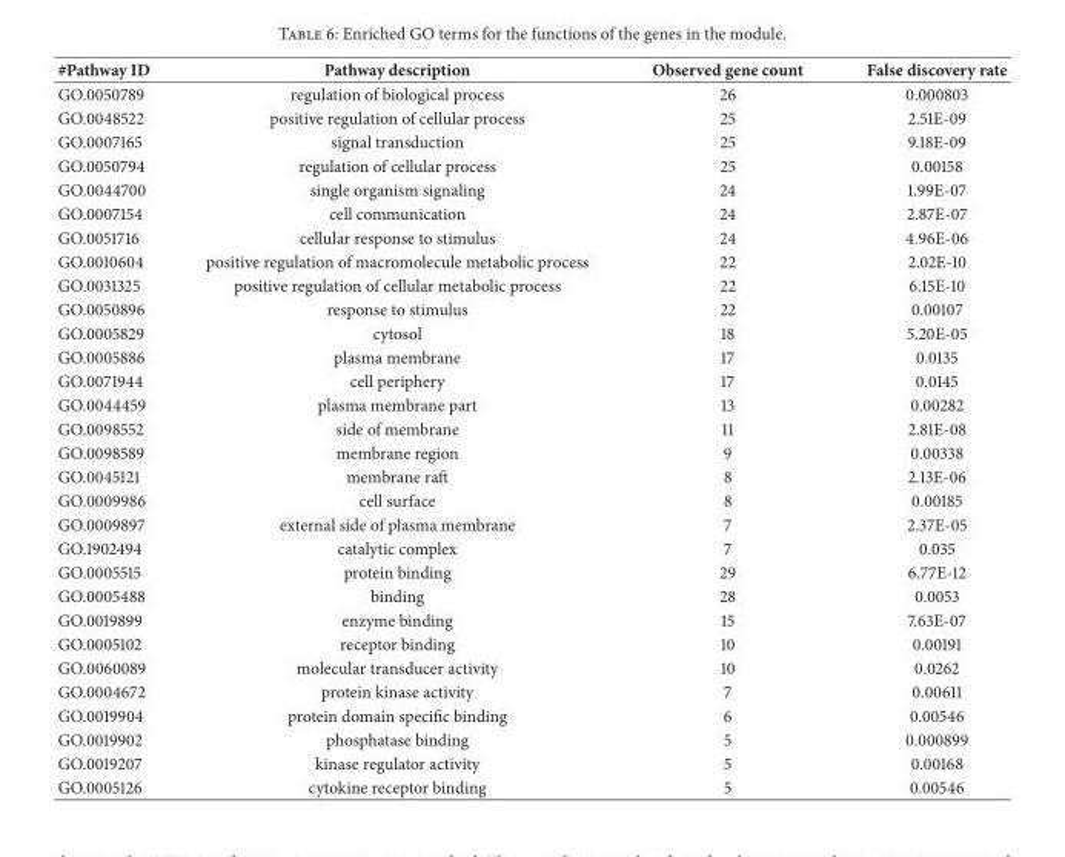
<table><thead><tr><td>#Pathway ID</td><td>Pathway description</td><td>Observed gene count</td><td>False discovery rate</td></tr></thead><tbody><tr><td>GO.0050789</td><td>regulation of biological process</td><td>26</td><td>0.000803</td></tr><tr><td>GO.0048522</td><td>positive regulation of cellular process</td><td>25</td><td>2.51E-09</td></tr><tr><td>GO.0007165</td><td>signal transduction</td><td>25</td><td>9.18E-09</td></tr><tr><td>GO.0050794</td><td>regulation of cellular process</td><td>25</td><td>0.00158</td></tr><tr><td>GO.0044700</td><td>single organism signaling</td><td>24</td><td>1.99E-07</td></tr><tr><td>GO.0007154</td><td>cell communication</td><td>24</td><td>2.87E-07</td></tr><tr><td>GO.0051716</td><td>cellular response to stimulus</td><td>24</td><td>4.96E-06</td></tr><tr><td>GO.0010604</td><td>positive regulation of macromolecule metabolic process</td><td>22</td><td>2.02E-10</td></tr><tr><td>GO.0031325</td><td>positive regulation of cellular metabolic process</td><td>22</td><td>6.15E-10</td></tr><tr><td>GO.0050896</td><td>response to stimulus</td><td>22</td><td>0.00107</td></tr><tr><td>GO.0005829</td><td>cytosol</td><td>18</td><td>5.20E-05</td></tr><tr><td>GO.0005886</td><td>plasma membrane</td><td>17</td><td>0.0135</td></tr><tr><td>GO.0071944</td><td>cell periphery</td><td>17</td><td>0.0145</td></tr><tr><td>GO.0044459</td><td>plasma membrane part</td><td>13</td><td>0.00282</td></tr><tr><td>GO.0098552</td><td>side of membrane</td><td>11</td><td>2.81E-08</td></tr><tr><td>GO.0098589</td><td>membrane region</td><td>9</td><td>0.00338</td></tr><tr><td>GO.0045121</td><td>membrane raft</td><td>8</td><td>2.13E-06</td></tr><tr><td>GO.0009986</td><td>cell surface</td><td>8</td><td>0.00185</td></tr><tr><td>GO.0009897</td><td>external side of plasma membrane</td><td>7</td><td>2.37E-05</td></tr><tr><td>GO.1902494</td><td>catalytic complex</td><td>7</td><td>0.035</td></tr><tr><td>GO.0005515</td><td>protein binding</td><td>29</td><td>6.77E-12</td></tr><tr><td>GO.0005488</td><td>binding</td><td>28</td><td>0.0053</td></tr><tr><td>GO.0019899</td><td>enzyme binding</td><td>15</td><td>7.63E-07</td></tr><tr><td>GO.0005102</td><td>receptor binding</td><td>10</td><td>0.00191</td></tr><tr><td>GO.0060089</td><td>molecular transducer activity</td><td>10</td><td>0.0262</td></tr><tr><td>GO.0004672</td><td>protein kinase activity</td><td>7</td><td>0.00611</td></tr><tr><td>GO.0019904</td><td>protein domain specific binding</td><td>6</td><td>0.00546</td></tr><tr><td>GO.0019902</td><td>phosphatase binding</td><td>5</td><td>0.000899</td></tr><tr><td>GO.0019207</td><td>kinase regulator activity</td><td>5</td><td>0.00168</td></tr><tr><td>GO.0005126</td><td>cytokine receptor binding</td><td>5</td><td>0.00546</td></tr></tbody></table>